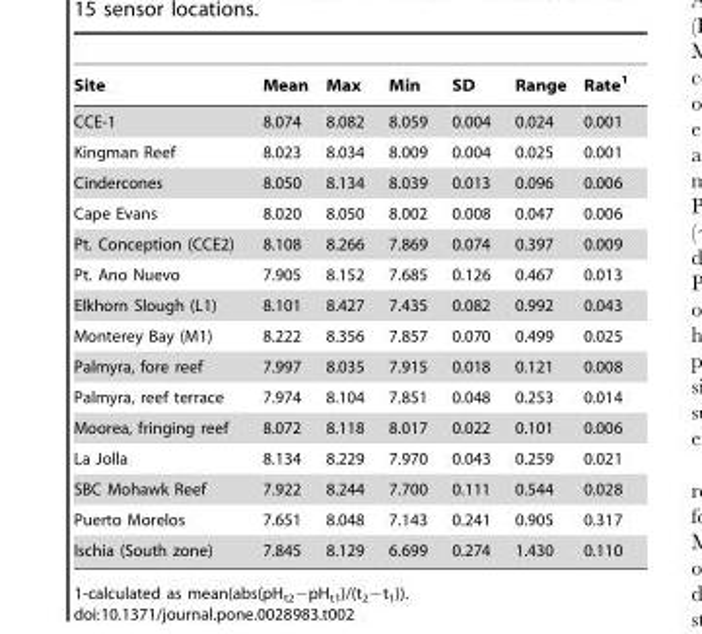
<table><thead><tr><td>Site</td><td>Mean</td><td>Max</td><td>Min</td><td>SD</td><td>Range</td><td>Rate<sup>1</sup></td></tr></thead><tbody><tr><td>CCE-1</td><td>8.074</td><td>8.082</td><td>8.059</td><td>0.004</td><td>0.024</td><td>0.001</td></tr><tr><td>Kingman Reef</td><td>8.023</td><td>8.034</td><td>8.009</td><td>0.004</td><td>0.025</td><td>0.001</td></tr><tr><td>Cindercones</td><td>8.050</td><td>8.134</td><td>8.039</td><td>0.013</td><td>0.096</td><td>0.006</td></tr><tr><td>Cape Evans</td><td>8.020</td><td>8.050</td><td>8.002</td><td>0.008</td><td>0.047</td><td>0.006</td></tr><tr><td>Pt. Conception (CCE2)</td><td>8.108</td><td>8.266</td><td>7.869</td><td>0.074</td><td>0.397</td><td>0.009</td></tr><tr><td>Pt. Ano Nuevo</td><td>7.905</td><td>8.152</td><td>7.685</td><td>0.126</td><td>0.467</td><td>0.013</td></tr><tr><td>Elkhorn Slough (L1)</td><td>8.101</td><td>8.427</td><td>7.435</td><td>0.082</td><td>0.992</td><td>0.043</td></tr><tr><td>Monterey Bay (M1)</td><td>8.222</td><td>8.356</td><td>7.857</td><td>0.070</td><td>0.499</td><td>0.025</td></tr><tr><td>Palmyra, fore reef</td><td>7.997</td><td>8.035</td><td>7.915</td><td>0.018</td><td>0.121</td><td>0.008</td></tr><tr><td>Palmyra, reef terrace</td><td>7.974</td><td>8.104</td><td>7.851</td><td>0.048</td><td>0.253</td><td>0.014</td></tr><tr><td>Moorea, fringing reef</td><td>8.072</td><td>8.118</td><td>8.017</td><td>0.022</td><td>0.101</td><td>0.006</td></tr><tr><td>La Jolla</td><td>8.134</td><td>8.229</td><td>7.970</td><td>0.043</td><td>0.259</td><td>0.021</td></tr><tr><td>SBC Mohawk Reef</td><td>7.922</td><td>8.244</td><td>7.700</td><td>0.111</td><td>0.544</td><td>0.028</td></tr><tr><td>Puerto Morelos</td><td>7.651</td><td>8.048</td><td>7.143</td><td>0.241</td><td>0.905</td><td>0.317</td></tr><tr><td>Ischia (South zone)</td><td>7.845</td><td>8.129</td><td>6.699</td><td>0.274</td><td>1.430</td><td>0.110</td></tr></tbody></table>